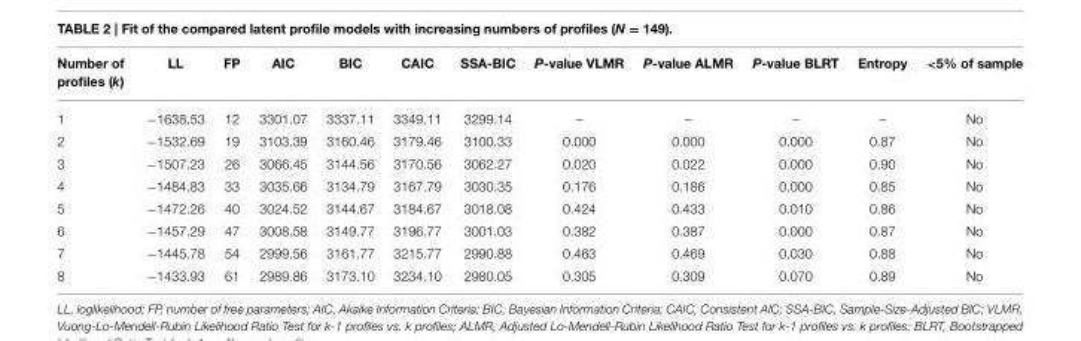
<table><thead><tr><td>Number of profiles (k)</td><td>LL</td><td>FP</td><td>AIC</td><td>BIC</td><td>CAIC</td><td>SSA-BIC</td><td>P-value VLMR</td><td>P-value ALMR</td><td>P-value BLRT</td><td>Entropy</td><td>&lt;5% of sample</td></tr></thead><tbody><tr><td>1</td><td>−1638.53</td><td>12</td><td>3301.07</td><td>3337.11</td><td>3349.11</td><td>3299.14</td><td>–</td><td>–</td><td>–</td><td>–</td><td>No</td></tr><tr><td>2</td><td>−1532.69</td><td>19</td><td>3103.39</td><td>3160.46</td><td>3179.46</td><td>3100.33</td><td>0.000</td><td>0.000</td><td>0.000</td><td>0.87</td><td>No</td></tr><tr><td>3</td><td>−1507.23</td><td>26</td><td>3066.45</td><td>3144.56</td><td>3170.56</td><td>3062.27</td><td>0.020</td><td>0.022</td><td>0.000</td><td>0.90</td><td>No</td></tr><tr><td>4</td><td>−1484.83</td><td>33</td><td>3035.66</td><td>3134.79</td><td>3167.79</td><td>3030.35</td><td>0.176</td><td>0.186</td><td>0.000</td><td>0.85</td><td>No</td></tr><tr><td>5</td><td>−1472.26</td><td>40</td><td>3024.52</td><td>3144.67</td><td>3184.67</td><td>3018.08</td><td>0.424</td><td>0.433</td><td>0.010</td><td>0.86</td><td>No</td></tr><tr><td>6</td><td>−1457.29</td><td>47</td><td>3008.58</td><td>3149.77</td><td>3196.77</td><td>3001.03</td><td>0.382</td><td>0.387</td><td>0.000</td><td>0.87</td><td>No</td></tr><tr><td>7</td><td>−1445.78</td><td>54</td><td>2999.56</td><td>3161.77</td><td>3215.77</td><td>2990.88</td><td>0.463</td><td>0.469</td><td>0.030</td><td>0.88</td><td>No</td></tr><tr><td>8</td><td>−1433.93</td><td>61</td><td>2989.86</td><td>3173.10</td><td>3234.10</td><td>2980.05</td><td>0.305</td><td>0.309</td><td>0.070</td><td>0.89</td><td>No</td></tr></tbody></table>